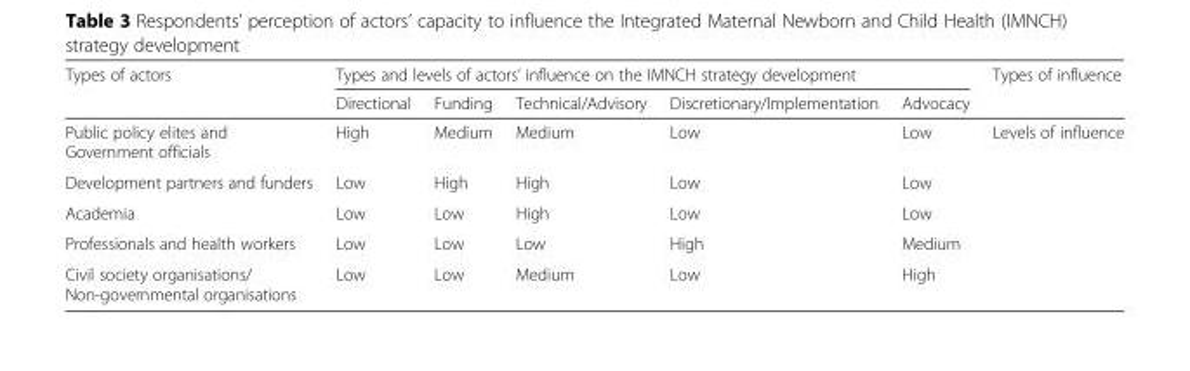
<table><thead><tr><td rowspan="2">Types of actors</td><td colspan="5">Types and levels of actors’ influence on the IMNCH strategy development</td><td rowspan="2">Types of influence</td></tr><tr><td>Directional</td><td>Funding</td><td>Technical/Advisory</td><td>Discretionary/Implementation</td><td>Advocacy</td></tr></thead><tbody><tr><td>Public policy elites and Government officials</td><td>High</td><td>Medium</td><td>Medium</td><td>Low</td><td>Low</td><td rowspan="5">Levels of influence</td></tr><tr><td>Development partners and funders</td><td>Low</td><td>High</td><td>High</td><td>Low</td><td>Low</td></tr><tr><td>Academia</td><td>Low</td><td>Low</td><td>High</td><td>Low</td><td>Low</td></tr><tr><td>Professionals and health workers</td><td>Low</td><td>Low</td><td>Low</td><td>High</td><td>Medium</td></tr><tr><td>Civil society organisations/ Non-governmental organisations</td><td>Low</td><td>Low</td><td>Medium</td><td>Low</td><td>High</td></tr></tbody></table>